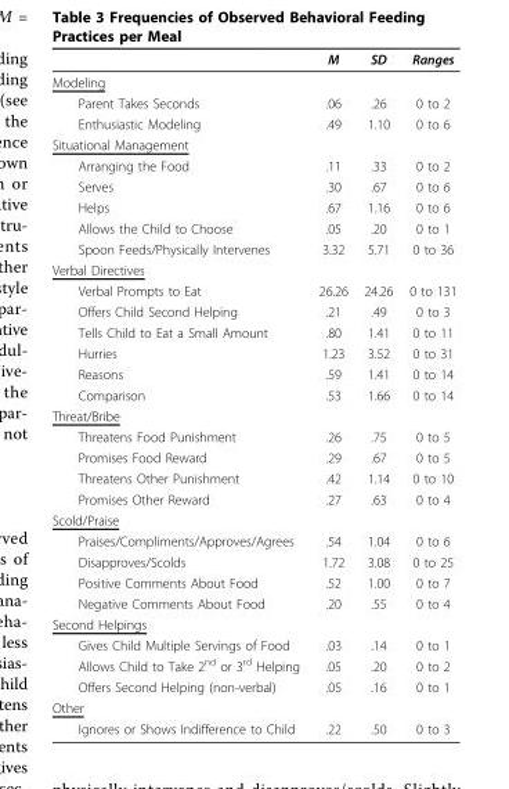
<table><thead><tr><td></td><td>M</td><td>SD</td><td>Ranges</td></tr></thead><tbody><tr><td colspan="4">Modeling</td></tr><tr><td>Parent Takes Seconds</td><td>.06</td><td>.26</td><td>0 to 2</td></tr><tr><td>Enthusiastic Modeling</td><td>.49</td><td>1.10</td><td>0 to 6</td></tr><tr><td colspan="4">Situational Management</td></tr><tr><td>Arranging the Food</td><td>.11</td><td>.33</td><td>0 to 2</td></tr><tr><td>Serves</td><td>.30</td><td>.67</td><td>0 to 6</td></tr><tr><td>Helps</td><td>.67</td><td>1.16</td><td>0 to 6</td></tr><tr><td>Allows the Child to Choose</td><td>.05</td><td>.20</td><td>0 to 1</td></tr><tr><td>Spoon Feeds/Physically Intervenes</td><td>3.32</td><td>5.71</td><td>0 to 36</td></tr><tr><td colspan="4">Verbal Directives</td></tr><tr><td>Verbal Prompts to Eat</td><td>26.26</td><td>24.26</td><td>0 to 131</td></tr><tr><td>Offers Child Second Helping</td><td>.21</td><td>.49</td><td>0 to 3</td></tr><tr><td>Tells Child to Eat a Small Amount</td><td>.80</td><td>1.41</td><td>0 to 11</td></tr><tr><td>Hurries</td><td>1.23</td><td>3.52</td><td>0 to 31</td></tr><tr><td>Reasons</td><td>.59</td><td>1.41</td><td>0 to 14</td></tr><tr><td>Comparison</td><td>.53</td><td>1.66</td><td>0 to 14</td></tr><tr><td colspan="4">Threat/Bribe</td></tr><tr><td>Threatens Food Punishment</td><td>.26</td><td>.75</td><td>0 to 5</td></tr><tr><td>Promises Food Reward</td><td>.29</td><td>.67</td><td>0 to 5</td></tr><tr><td>Threatens Other Punishment</td><td>.42</td><td>1.14</td><td>0 to 10</td></tr><tr><td>Promises Other Reward</td><td>.27</td><td>.63</td><td>0 to 4</td></tr><tr><td colspan="4">Scold/Praise</td></tr><tr><td>Praises/Compliments/Approves/Agrees</td><td>.54</td><td>1.04</td><td>0 to 6</td></tr><tr><td>Disapproves/Scolds</td><td>1.72</td><td>3.08</td><td>0 to 25</td></tr><tr><td>Positive Comments About Food</td><td>.52</td><td>1.00</td><td>0 to 7</td></tr><tr><td>Negative Comments About Food</td><td>.20</td><td>.55</td><td>0 to 4</td></tr><tr><td colspan="4">Second Helpings</td></tr><tr><td>Gives Child Multiple Servings of Food</td><td>.03</td><td>.14</td><td>0 to 1</td></tr><tr><td>Allows Child to Take 2<sup>nd</sup> or 3<sup>rd</sup> Helping</td><td>.05</td><td>.20</td><td>0 to 2</td></tr><tr><td>Offers Second Helping (non-verbal)</td><td>.05</td><td>.16</td><td>0 to 1</td></tr><tr><td colspan="4">Other</td></tr><tr><td>Ignores or Shows Indifference to Child</td><td>.22</td><td>.50</td><td>0 to 3</td></tr></tbody></table>